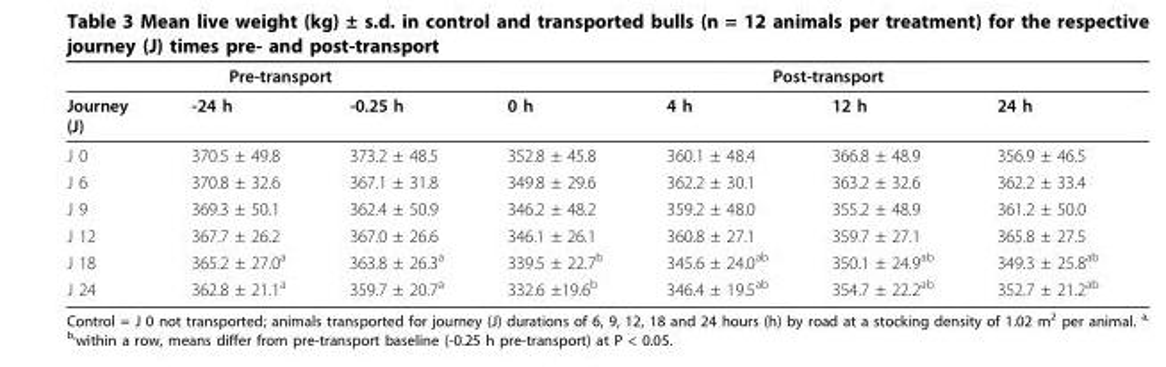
<table><thead><tr><td colspan="3">Pre-transport</td><td colspan="4">Post-transport</td></tr><tr><td>Journey (J)</td><td>-24 h</td><td>-0.25 h</td><td>0 h</td><td>4 h</td><td>12 h</td><td>24 h</td></tr></thead><tbody><tr><td>J 0</td><td>370.5 ± 49.8</td><td>373.2 ± 48.5</td><td>352.8 ± 45.8</td><td>360.1 ± 48.4</td><td>366.8 ± 48.9</td><td>356.9 ± 46.5</td></tr><tr><td>J 6</td><td>370.8 ± 32.6</td><td>367.1 ± 31.8</td><td>349.8 ± 29.6</td><td>362.2 ± 30.1</td><td>363.2 ± 32.6</td><td>362.2 ± 33.4</td></tr><tr><td>J 9</td><td>369.3 ± 50.1</td><td>362.4 ± 50.9</td><td>346.2 ± 48.2</td><td>359.2 ± 48.0</td><td>355.2 ± 48.9</td><td>361.2 ± 50.0</td></tr><tr><td>J 12</td><td>367.7 ± 26.2</td><td>367.0 ± 26.6</td><td>346.1 ± 26.1</td><td>360.8 ± 27.1</td><td>359.7 ± 27.1</td><td>365.8 ± 27.5</td></tr><tr><td>J 18</td><td>365.2 ± 27.0<sup>a</sup></td><td>363.8 ± 26.3<sup>a</sup></td><td>339.5 ± 22.7<sup>b</sup></td><td>345.6 ± 24.0<sup>ab</sup></td><td>350.1 ± 24.9<sup>ab</sup></td><td>349.3 ± 25.8<sup>ab</sup></td></tr><tr><td>J 24</td><td>362.8 ± 21.1<sup>a</sup></td><td>359.7 ± 20.7<sup>a</sup></td><td>332.6 ±19.6<sup>b</sup></td><td>346.4 ± 19.5<sup>ab</sup></td><td>354.7 ± 22.2<sup>ab</sup></td><td>352.7 ± 21.2<sup>ab</sup></td></tr></tbody></table>